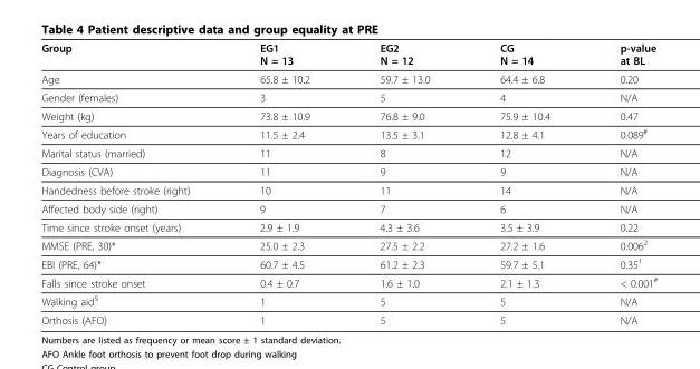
<table><thead><tr><td>Group</td><td>EG1 N = 13</td><td>EG2 N = 12</td><td>CG N = 14</td><td>p-value at BL</td></tr></thead><tbody><tr><td>Age</td><td>65.8 ± 10.2</td><td>59.7 ± 13.0</td><td>64.4 ± 6.8</td><td>0.20</td></tr><tr><td>Gender (females)</td><td>3</td><td>5</td><td>4</td><td>N/A</td></tr><tr><td>Weight (kg)</td><td>73.8 ± 10.9</td><td>76.8 ± 9.0</td><td>75.9 ± 10.4</td><td>0.47</td></tr><tr><td>Years of education</td><td>11.5 ± 2.4</td><td>13.5 ± 3.1</td><td>12.8 ± 4.1</td><td>0.089<sup>#</sup></td></tr><tr><td>Marital status (married)</td><td>11</td><td>8</td><td>12</td><td>N/A</td></tr><tr><td>Diagnosis (CVA)</td><td>11</td><td>9</td><td>9</td><td>N/A</td></tr><tr><td>Handedness before stroke (right)</td><td>10</td><td>11</td><td>14</td><td>N/A</td></tr><tr><td>Affected body side (right)</td><td>9</td><td>7</td><td>6</td><td>N/A</td></tr><tr><td>Time since stroke onset (years)</td><td>2.9 ± 1.9</td><td>4.3 ± 3.6</td><td>3.5 ± 3.9</td><td>0.22</td></tr><tr><td>MMSE (PRE, 30)*</td><td>25.0 ± 2.3</td><td>27.5 ± 2.2</td><td>27.2 ± 1.6</td><td>0.006<sup>2</sup></td></tr><tr><td>EBI (PRE, 64)*</td><td>60.7 ± 4.5</td><td>61.2 ± 2.3</td><td>59.7 ± 5.1</td><td>0.35<sup>1</sup></td></tr><tr><td>Falls since stroke onset</td><td>0.4 ± 0.7</td><td>1.6 ± 1.0</td><td>2.1 ± 1.3</td><td>&lt; 0.001<sup>#</sup></td></tr><tr><td>Walking aid<sup>§</sup></td><td>1</td><td>5</td><td>5</td><td>N/A</td></tr><tr><td>Orthosis (AFO)</td><td>1</td><td>5</td><td>5</td><td>N/A</td></tr></tbody></table>